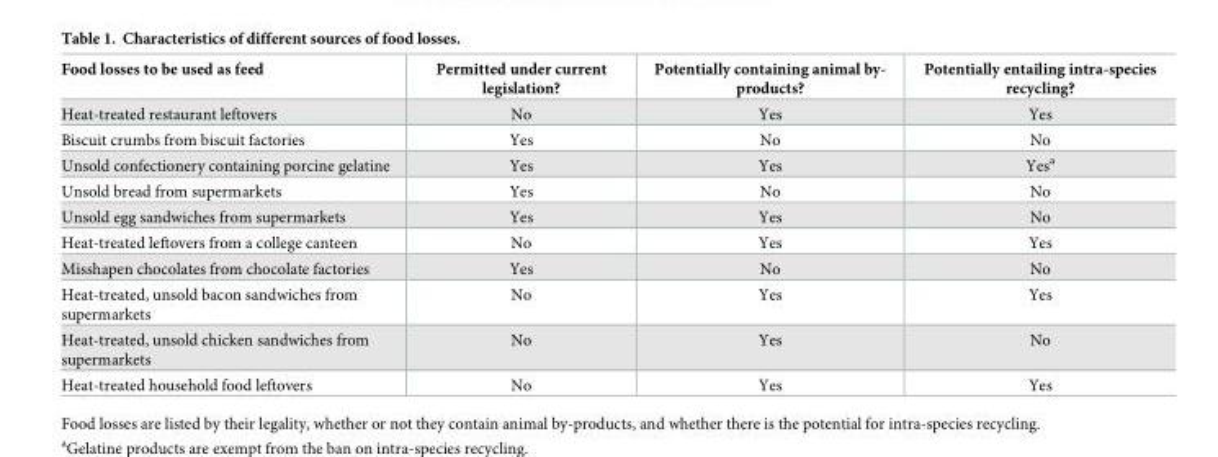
<table><thead><tr><td>Food losses to be used as feed</td><td>Permitted under current legislation?</td><td>Potentially containing animal by- products?</td><td>Potentially entailing intra-species recycling?</td></tr></thead><tbody><tr><td>Heat-treated restaurant leftovers</td><td>No</td><td>Yes</td><td>Yes</td></tr><tr><td>Biscuit crumbs from biscuit factories</td><td>Yes</td><td>No</td><td>No</td></tr><tr><td>Unsold confectionery containing porcine gelatine</td><td>Yes</td><td>Yes</td><td>Yes<sup>a</sup></td></tr><tr><td>Unsold bread from supermarkets</td><td>Yes</td><td>No</td><td>No</td></tr><tr><td>Unsold egg sandwiches from supermarkets</td><td>Yes</td><td>Yes</td><td>No</td></tr><tr><td>Heat-treated leftovers from a college canteen</td><td>No</td><td>Yes</td><td>Yes</td></tr><tr><td>Misshapen chocolates from chocolate factories</td><td>Yes</td><td>No</td><td>No</td></tr><tr><td>Heat-treated, unsold bacon sandwiches from supermarkets</td><td>No</td><td>Yes</td><td>Yes</td></tr><tr><td>Heat-treated, unsold chicken sandwiches from supermarkets</td><td>No</td><td>Yes</td><td>No</td></tr><tr><td>Heat-treated household food leftovers</td><td>No</td><td>Yes</td><td>Yes</td></tr></tbody></table>